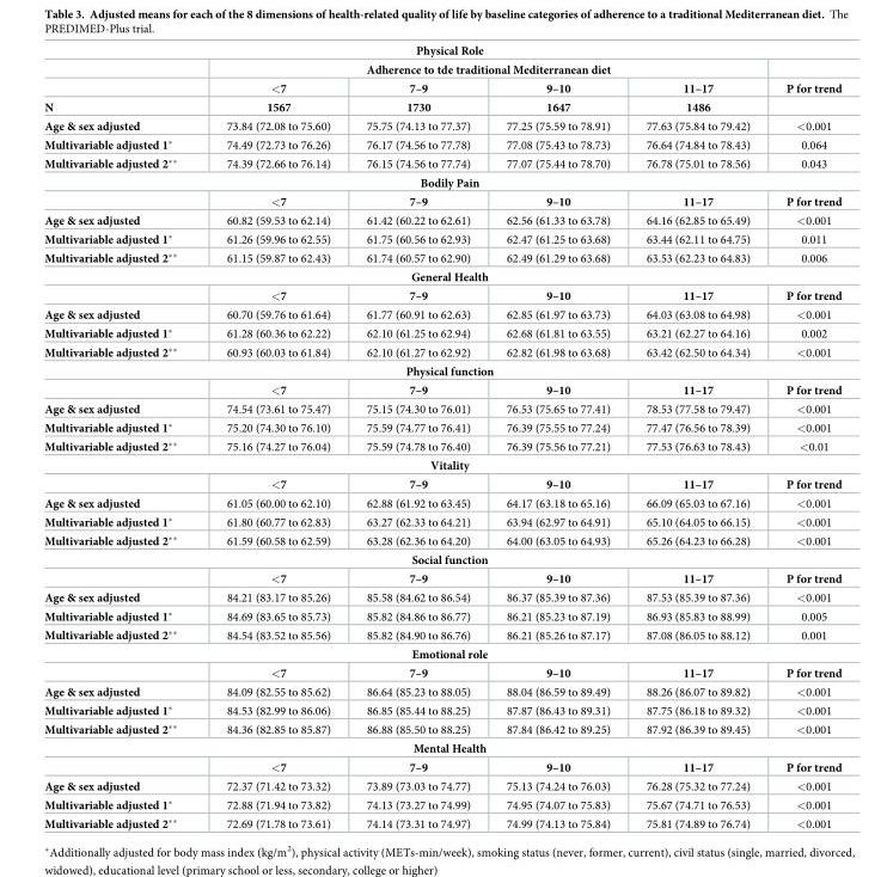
<table><thead><tr><td colspan="6">Physical Role</td></tr><tr><td rowspan="2"></td><td colspan="4">Adherence to tde traditional Mediterranean diet</td><td rowspan="2">P for trend</td></tr><tr><td>&lt;7</td><td>7–9</td><td>9–10</td><td>11–17</td></tr></thead><tbody><tr><td>N</td><td>1567</td><td>1730</td><td>1647</td><td>1486</td><td></td></tr><tr><td>Age &amp; sex adjusted</td><td>73.84 (72.08 to 75.60)</td><td>75.75 (74.13 to 77.37)</td><td>77.25 (75.59 to 78.91)</td><td>77.63 (75.84 to 79.42)</td><td>&lt;0.001</td></tr><tr><td>Multivariable adjusted 1*</td><td>74.49 (72.73 to 76.26)</td><td>76.17 (74.56 to 77.78)</td><td>77.08 (75.43 to 78.73)</td><td>76.64 (74.84 to 78.43)</td><td>0.064</td></tr><tr><td>Multivariable adjusted 2**</td><td>74.39 (72.66 to 76.14)</td><td>76.15 (74.56 to 77.74)</td><td>77.07 (75.44 to 78.70)</td><td>76.78 (75.01 to 78.56)</td><td>0.043</td></tr><tr><td colspan="6">Bodily Pain</td></tr><tr><td></td><td>&lt;7</td><td>7–9</td><td>9–10</td><td>11–17</td><td>P for trend</td></tr><tr><td>Age &amp; sex adjusted</td><td>60.82 (59.53 to 62.14)</td><td>61.42 (60.22 to 62.61)</td><td>62.56 (61.33 to 63.78)</td><td>64.16 (62.85 to 65.49)</td><td>&lt;0.001</td></tr><tr><td>Multivariable adjusted 1*</td><td>61.26 (59.96 to 62.55)</td><td>61.75 (60.56 to 62.93)</td><td>62.47 (61.25 to 63.68)</td><td>63.44 (62.11 to 64.75)</td><td>0.011</td></tr><tr><td>Multivariable adjusted 2**</td><td>61.15 (59.87 to 62.43)</td><td>61.74 (60.57 to 62.90)</td><td>62.49 (61.29 to 63.68)</td><td>63.53 (62.23 to 64.83)</td><td>0.006</td></tr><tr><td colspan="6">General Health</td></tr><tr><td></td><td>&lt;7</td><td>7–9</td><td>9–10</td><td>11–17</td><td>P for trend</td></tr><tr><td>Age &amp; sex adjusted</td><td>60.70 (59.76 to 61.64)</td><td>61.77 (60.91 to 62.63)</td><td>62.85 (61.97 to 63.73)</td><td>64.03 (63.08 to 64.98)</td><td>&lt;0.001</td></tr><tr><td>Multivariable adjusted 1*</td><td>61.28 (60.36 to 62.22)</td><td>62.10 (61.25 to 62.94)</td><td>62.68 (61.81 to 63.55)</td><td>63.21 (62.27 to 64.16)</td><td>0.002</td></tr><tr><td>Multivariable adjusted 2**</td><td>60.93 (60.03 to 61.84)</td><td>62.10 (61.27 to 62.92)</td><td>62.82 (61.98 to 63.68)</td><td>63.42 (62.50 to 64.34)</td><td>&lt;0.001</td></tr><tr><td colspan="6">Physical function</td></tr><tr><td></td><td>&lt;7</td><td>7–9</td><td>9–10</td><td>11–17</td><td>P for trend</td></tr><tr><td>Age &amp; sex adjusted</td><td>74.54 (73.61 to 75.47)</td><td>75.15 (74.30 to 76.01)</td><td>76.53 (75.65 to 77.41)</td><td>78.53 (77.58 to 79.47)</td><td>&lt;0.001</td></tr><tr><td>Multivariable adjusted 1*</td><td>75.20 (74.30 to 76.10)</td><td>75.59 (74.77 to 76.41)</td><td>76.39 (75.55 to 77.24)</td><td>77.47 (76.56 to 78.39)</td><td>&lt;0.001</td></tr><tr><td>Multivariable adjusted 2**</td><td>75.16 (74.27 to 76.04)</td><td>75.59 (74.78 to 76.40)</td><td>76.39 (75.56 to 77.21)</td><td>77.53 (76.63 to 78.43)</td><td>&lt;0.01</td></tr><tr><td colspan="6">Vitality</td></tr><tr><td></td><td>&lt;7</td><td>7–9</td><td>9–10</td><td>11–17</td><td>P for trend</td></tr><tr><td>Age &amp; sex adjusted</td><td>61.05 (60.00 to 62.10)</td><td>62.88 (61.92 to 63.45)</td><td>64.17 (63.18 to 65.16)</td><td>66.09 (65.03 to 67.16)</td><td>&lt;0.001</td></tr><tr><td>Multivariable adjusted 1*</td><td>61.80 (60.77 to 62.83)</td><td>63.27 (62.33 to 64.21)</td><td>63.94 (62.97 to 64.91)</td><td>65.10 (64.05 to 66.15)</td><td>&lt;0.001</td></tr><tr><td>Multivariable adjusted 2**</td><td>61.59 (60.58 to 62.59)</td><td>63.28 (62.36 to 64.20)</td><td>64.00 (63.05 to 64.93)</td><td>65.26 (64.23 to 66.28)</td><td>&lt;0.001</td></tr><tr><td colspan="6">Social function</td></tr><tr><td></td><td>&lt;7</td><td>7–9</td><td>9–10</td><td>11–17</td><td>P for trend</td></tr><tr><td>Age &amp; sex adjusted</td><td>84.21 (83.17 to 85.26)</td><td>85.58 (84.62 to 86.54)</td><td>86.37 (85.39 to 87.36)</td><td>87.53 (85.39 to 87.36)</td><td>&lt;0.001</td></tr><tr><td>Multivariable adjusted 1*</td><td>84.69 (83.65 to 85.73)</td><td>85.82 (84.86 to 86.77)</td><td>86.21 (85.23 to 87.19)</td><td>86.93 (85.83 to 88.99)</td><td>0.005</td></tr><tr><td>Multivariable adjusted 2**</td><td>84.54 (83.52 to 85.56)</td><td>85.82 (84.90 to 86.76)</td><td>86.21 (85.26 to 87.17)</td><td>87.08 (86.05 to 88.12)</td><td>0.001</td></tr><tr><td colspan="6">Emotional role</td></tr><tr><td></td><td>&lt;7</td><td>7–9</td><td>9–10</td><td>11–17</td><td>P for trend</td></tr><tr><td>Age &amp; sex adjusted</td><td>84.09 (82.55 to 85.62)</td><td>86.64 (85.23 to 88.05)</td><td>88.04 (86.59 to 89.49)</td><td>88.26 (86.07 to 89.82)</td><td>&lt;0.001</td></tr><tr><td>Multivariable adjusted 1*</td><td>84.53 (82.99 to 86.06)</td><td>86.85 (85.44 to 88.25)</td><td>87.87 (86.43 to 89.31)</td><td>87.75 (86.18 to 89.32)</td><td>&lt;0.001</td></tr><tr><td>Multivariable adjusted 2**</td><td>84.36 (82.85 to 85.87)</td><td>86.88 (85.50 to 88.25)</td><td>87.84 (86.42 to 89.25)</td><td>87.92 (86.39 to 89.45)</td><td>&lt;0.001</td></tr><tr><td colspan="6">Mental Health</td></tr><tr><td></td><td>&lt;7</td><td>7–9</td><td>9–10</td><td>11–17</td><td>P for trend</td></tr><tr><td>Age &amp; sex adjusted</td><td>72.37 (71.42 to 73.32)</td><td>73.89 (73.03 to 74.77)</td><td>75.13 (74.24 to 76.03)</td><td>76.28 (75.32 to 77.24)</td><td>&lt;0.001</td></tr><tr><td>Multivariable adjusted 1*</td><td>72.88 (71.94 to 73.82)</td><td>74.13 (73.27 to 74.99)</td><td>74.95 (74.07 to 75.83)</td><td>75.67 (74.71 to 76.53)</td><td>&lt;0.001</td></tr><tr><td>Multivariable adjusted 2**</td><td>72.69 (71.78 to 73.61)</td><td>74.14 (73.31 to 74.97)</td><td>74.99 (74.13 to 75.84)</td><td>75.81 (74.89 to 76.74)</td><td>&lt;0.001</td></tr></tbody></table>